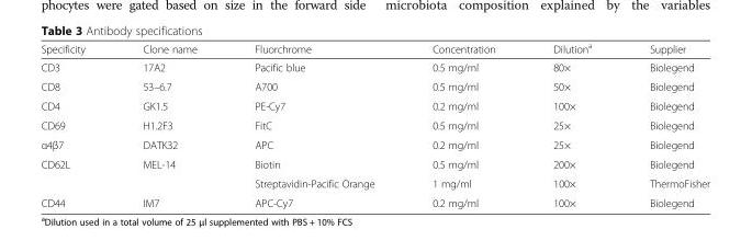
<table><thead><tr><td>Specificity</td><td>Clone name</td><td>Fluorchrome</td><td>Concentration</td><td>Dilution<sup>a</sup></td><td>Supplier</td></tr></thead><tbody><tr><td>CD3</td><td>17A2</td><td>Pacific blue</td><td>0.5 mg/ml</td><td>80×</td><td>Biolegend</td></tr><tr><td>CD8</td><td>53–6.7</td><td>A700</td><td>0.5 mg/ml</td><td>50×</td><td>Biolegend</td></tr><tr><td>CD4</td><td>GK1.5</td><td>PE-Cy7</td><td>0.2 mg/ml</td><td>100×</td><td>Biolegend</td></tr><tr><td>CD69</td><td>H1.2F3</td><td>FitC</td><td>0.5 mg/ml</td><td>25×</td><td>Biolegend</td></tr><tr><td>α4β7</td><td>DATK32</td><td>APC</td><td>0.2 mg/ml</td><td>25×</td><td>Biolegend</td></tr><tr><td rowspan="2">CD62L</td><td>MEL-14</td><td>Biotin</td><td>0.5 mg/ml</td><td>200×</td><td>Biolegend</td></tr><tr><td></td><td>Streptavidin-Pacific Orange</td><td>1 mg/ml</td><td>100×</td><td>ThermoFisher</td></tr><tr><td>CD44</td><td>IM7</td><td>APC-Cy7</td><td>0.2 mg/ml</td><td>100×</td><td>Biolegend</td></tr></tbody></table>